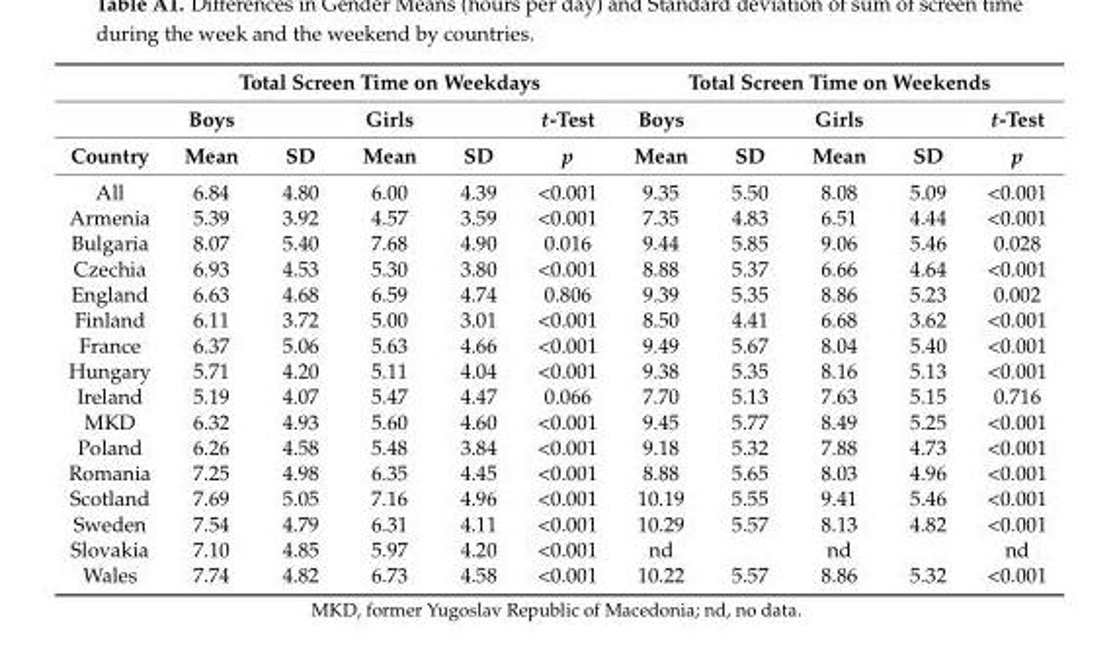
<table><thead><tr><td rowspan="3">Country</td><td colspan="5">Total Screen Time on Weekdays</td><td colspan="5">Total Screen Time on Weekends</td></tr><tr><td rowspan="2">Boys Mean</td><td rowspan="2">SD</td><td rowspan="2">Girls Mean</td><td rowspan="2">SD</td><td rowspan="2">t-Test p</td><td rowspan="2">Boys Mean</td><td rowspan="2">SD</td><td rowspan="2">Girls Mean</td><td rowspan="2">SD</td><td rowspan="2">t-Test p</td></tr><tr></tr></thead><tbody><tr><td>All</td><td>6.84</td><td>4.80</td><td>6.00</td><td>4.39</td><td>&lt;0.001</td><td>9.35</td><td>5.50</td><td>8.08</td><td>5.09</td><td>&lt;0.001</td></tr><tr><td>Armenia</td><td>5.39</td><td>3.92</td><td>4.57</td><td>3.59</td><td>&lt;0.001</td><td>7.35</td><td>4.83</td><td>6.51</td><td>4.44</td><td>&lt;0.001</td></tr><tr><td>Bulgaria</td><td>8.07</td><td>5.40</td><td>7.68</td><td>4.90</td><td>0.016</td><td>9.44</td><td>5.85</td><td>9.06</td><td>5.46</td><td>0.028</td></tr><tr><td>Czechia</td><td>6.93</td><td>4.53</td><td>5.30</td><td>3.80</td><td>&lt;0.001</td><td>8.88</td><td>5.37</td><td>6.66</td><td>4.64</td><td>&lt;0.001</td></tr><tr><td>England</td><td>6.63</td><td>4.68</td><td>6.59</td><td>4.74</td><td>0.806</td><td>9.39</td><td>5.35</td><td>8.86</td><td>5.23</td><td>0.002</td></tr><tr><td>Finland</td><td>6.11</td><td>3.72</td><td>5.00</td><td>3.01</td><td>&lt;0.001</td><td>8.50</td><td>4.41</td><td>6.68</td><td>3.62</td><td>&lt;0.001</td></tr><tr><td>France</td><td>6.37</td><td>5.06</td><td>5.63</td><td>4.66</td><td>&lt;0.001</td><td>9.49</td><td>5.67</td><td>8.04</td><td>5.40</td><td>&lt;0.001</td></tr><tr><td>Hungary</td><td>5.71</td><td>4.20</td><td>5.11</td><td>4.04</td><td>&lt;0.001</td><td>9.38</td><td>5.35</td><td>8.16</td><td>5.13</td><td>&lt;0.001</td></tr><tr><td>Ireland</td><td>5.19</td><td>4.07</td><td>5.47</td><td>4.47</td><td>0.066</td><td>7.70</td><td>5.13</td><td>7.63</td><td>5.15</td><td>0.716</td></tr><tr><td>MKD</td><td>6.32</td><td>4.93</td><td>5.60</td><td>4.60</td><td>&lt;0.001</td><td>9.45</td><td>5.77</td><td>8.49</td><td>5.25</td><td>&lt;0.001</td></tr><tr><td>Poland</td><td>6.26</td><td>4.58</td><td>5.48</td><td>3.84</td><td>&lt;0.001</td><td>9.18</td><td>5.32</td><td>7.88</td><td>4.73</td><td>&lt;0.001</td></tr><tr><td>Romania</td><td>7.25</td><td>4.98</td><td>6.35</td><td>4.45</td><td>&lt;0.001</td><td>8.88</td><td>5.65</td><td>8.03</td><td>4.96</td><td>&lt;0.001</td></tr><tr><td>Scotland</td><td>7.69</td><td>5.05</td><td>7.16</td><td>4.96</td><td>&lt;0.001</td><td>10.19</td><td>5.55</td><td>9.41</td><td>5.46</td><td>&lt;0.001</td></tr><tr><td>Sweden</td><td>7.54</td><td>4.79</td><td>6.31</td><td>4.11</td><td>&lt;0.001</td><td>10.29</td><td>5.57</td><td>8.13</td><td>4.82</td><td>&lt;0.001</td></tr><tr><td>Slovakia</td><td>7.10</td><td>4.85</td><td>5.97</td><td>4.20</td><td>&lt;0.001</td><td>nd</td><td></td><td>nd</td><td></td><td>nd</td></tr><tr><td>Wales</td><td>7.74</td><td>4.82</td><td>6.73</td><td>4.58</td><td>&lt;0.001</td><td>10.22</td><td>5.57</td><td>8.86</td><td>5.32</td><td>&lt;0.001</td></tr></tbody></table>